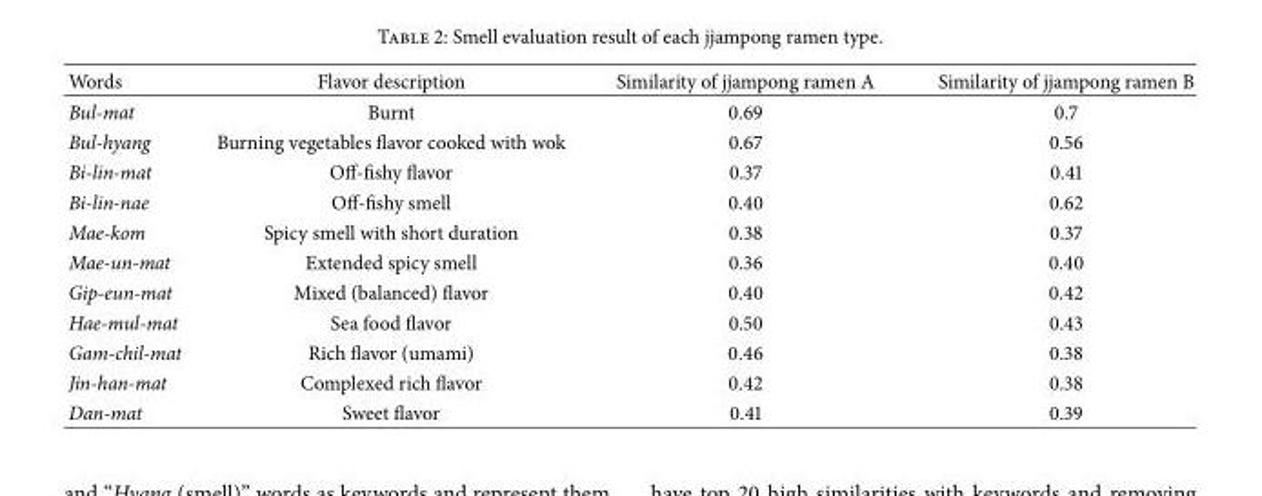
<table><thead><tr><td>Words</td><td>Flavor description</td><td>Similarity of jjampong ramen A</td><td>Similarity of jjampong ramen B</td></tr></thead><tbody><tr><td>Bul-mat</td><td>Burnt</td><td>0.69</td><td>0.7</td></tr><tr><td>Bul-hyang</td><td>Burning vegetables flavor cooked with wok</td><td>0.67</td><td>0.56</td></tr><tr><td>Bi-lin-mat</td><td>Off-fishy flavor</td><td>0.37</td><td>0.41</td></tr><tr><td>Bi-lin-nae</td><td>Off-fishy smell</td><td>0.40</td><td>0.62</td></tr><tr><td>Mae-kom</td><td>Spicy smell with short duration</td><td>0.38</td><td>0.37</td></tr><tr><td>Mae-un-mat</td><td>Extended spicy smell</td><td>0.36</td><td>0.40</td></tr><tr><td>Gip-eun-mat</td><td>Mixed (balanced) flavor</td><td>0.40</td><td>0.42</td></tr><tr><td>Hae-mul-mat</td><td>Sea food flavor</td><td>0.50</td><td>0.43</td></tr><tr><td>Gam-chil-mat</td><td>Rich flavor (umami)</td><td>0.46</td><td>0.38</td></tr><tr><td>Jin-han-mat</td><td>Complexed rich flavor</td><td>0.42</td><td>0.38</td></tr><tr><td>Dan-mat</td><td>Sweet flavor</td><td>0.41</td><td>0.39</td></tr></tbody></table>